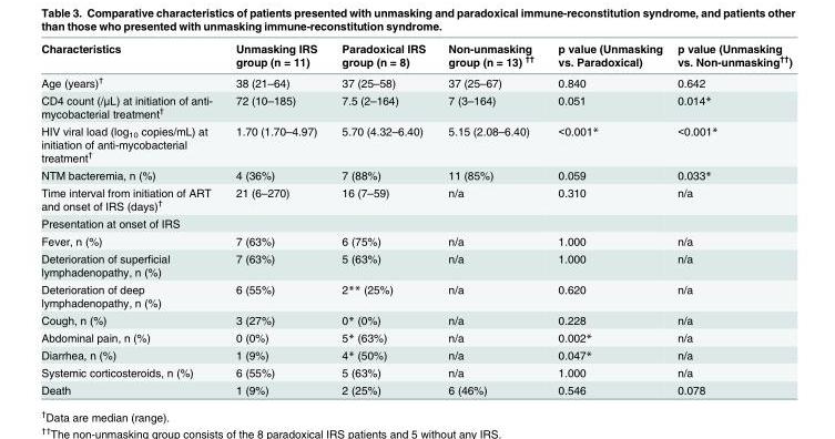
<table><thead><tr><td>Characteristics</td><td>Unmasking IRS group (n = 11)</td><td>Paradoxical IRS group (n = 8)</td><td>Non-unmasking group (n = 13) <sup>††</sup></td><td>p value (Unmasking vs. Paradoxical)</td><td>p value (Unmasking vs. Non-unmasking<sup>††</sup>)</td></tr></thead><tbody><tr><td>Age (years)<sup>†</sup></td><td>38 (21–64)</td><td>37 (25–58)</td><td>37 (25–67)</td><td>0.840</td><td>0.642</td></tr><tr><td>CD4 count (/μL) at initiation of anti- mycobacterial treatment<sup>†</sup></td><td>72 (10–185)</td><td>7.5 (2–164)</td><td>7 (3–164)</td><td>0.051</td><td>0.014*</td></tr><tr><td>HIV viral load (log<sub>10</sub> copies/mL) at initiation of anti-mycobacterial treatment<sup>†</sup></td><td>1.70 (1.70–4.97)</td><td>5.70 (4.32–6.40)</td><td>5.15 (2.08–6.40)</td><td>&lt;0.001*</td><td>&lt;0.001*</td></tr><tr><td>NTM bacteremia, n (%)</td><td>4 (36%)</td><td>7 (88%)</td><td>11 (85%)</td><td>0.059</td><td>0.033*</td></tr><tr><td>Time interval from initiation of ART and onset of IRS (days)<sup>†</sup></td><td>21 (6–270)</td><td>16 (7–59)</td><td>n/a</td><td>0.310</td><td>n/a</td></tr><tr><td colspan="6">Presentation at onset of IRS</td></tr><tr><td>Fever, n (%)</td><td>7 (63%)</td><td>6 (75%)</td><td>n/a</td><td>1.000</td><td>n/a</td></tr><tr><td>Deterioration of superficial lymphadenopathy, n (%)</td><td>7 (63%)</td><td>5 (63%)</td><td>n/a</td><td>1.000</td><td>n/a</td></tr><tr><td>Deterioration of deep lymphadenopathy, n (%)</td><td>6 (55%)</td><td>2** (25%)</td><td>n/a</td><td>0.620</td><td>n/a</td></tr><tr><td>Cough, n (%)</td><td>3 (27%)</td><td>0* (0%)</td><td>n/a</td><td>0.228</td><td>n/a</td></tr><tr><td>Abdominal pain, n (%)</td><td>0 (0%)</td><td>5* (63%)</td><td>n/a</td><td>0.002*</td><td>n/a</td></tr><tr><td>Diarrhea, n (%)</td><td>1 (9%)</td><td>4* (50%)</td><td>n/a</td><td>0.047*</td><td>n/a</td></tr><tr><td>Systemic corticosteroids, n (%)</td><td>6 (55%)</td><td>5 (63%)</td><td>n/a</td><td>1.000</td><td>n/a</td></tr><tr><td>Death</td><td>1 (9%)</td><td>2 (25%)</td><td>6 (46%)</td><td>0.546</td><td>0.078</td></tr></tbody></table>